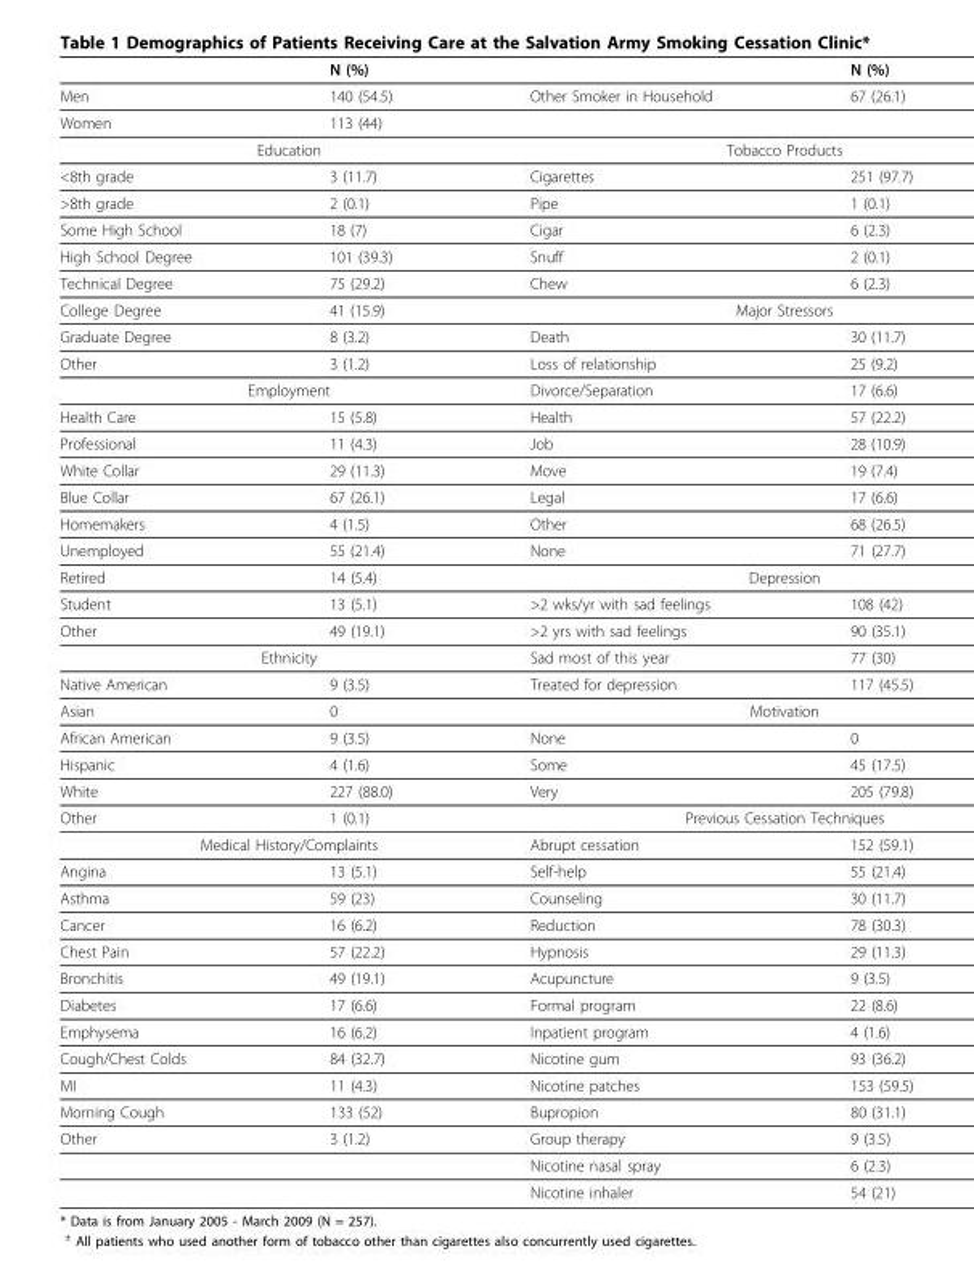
<table><thead><tr><td></td><td>N (%)</td><td></td><td>N (%)</td></tr></thead><tbody><tr><td>Men</td><td>140 (54.5)</td><td>Other Smoker in Household</td><td>67 (26.1)</td></tr><tr><td>Women</td><td>113 (44)</td><td></td><td></td></tr><tr><td colspan="2">Education</td><td colspan="2">Tobacco Products</td></tr><tr><td>&lt;8th grade</td><td>3 (11.7)</td><td>Cigarettes</td><td>251 (97.7)</td></tr><tr><td>&gt;8th grade</td><td>2 (0.1)</td><td>Pipe</td><td>1 (0.1)</td></tr><tr><td>Some High School</td><td>18 (7)</td><td>Cigar</td><td>6 (2.3)</td></tr><tr><td>High School Degree</td><td>101 (39.3)</td><td>Snuff</td><td>2 (0.1)</td></tr><tr><td>Technical Degree</td><td>75 (29.2)</td><td>Chew</td><td>6 (2.3)</td></tr><tr><td>College Degree</td><td>41 (15.9)</td><td colspan="2">Major Stressors</td></tr><tr><td>Graduate Degree</td><td>8 (3.2)</td><td>Death</td><td>30 (11.7)</td></tr><tr><td>Other</td><td>3 (1.2)</td><td>Loss of relationship</td><td>25 (9.2)</td></tr><tr><td colspan="2">Employment</td><td>Divorce/Separation</td><td>17 (6.6)</td></tr><tr><td>Health Care</td><td>15 (5.8)</td><td>Health</td><td>57 (22.2)</td></tr><tr><td>Professional</td><td>11 (4.3)</td><td>Job</td><td>28 (10.9)</td></tr><tr><td>White Collar</td><td>29 (11.3)</td><td>Move</td><td>19 (7.4)</td></tr><tr><td>Blue Collar</td><td>67 (26.1)</td><td>Legal</td><td>17 (6.6)</td></tr><tr><td>Homemakers</td><td>4 (1.5)</td><td>Other</td><td>68 (26.5)</td></tr><tr><td>Unemployed</td><td>55 (21.4)</td><td>None</td><td>71 (27.7)</td></tr><tr><td>Retired</td><td>14 (5.4)</td><td colspan="2">Depression</td></tr><tr><td>Student</td><td>13 (5.1)</td><td>&gt;2 wks/yr with sad feelings</td><td>108 (42)</td></tr><tr><td>Other</td><td>49 (19.1)</td><td>&gt;2 yrs with sad feelings</td><td>90 (35.1)</td></tr><tr><td colspan="2">Ethnicity</td><td>Sad most of this year</td><td>77 (30)</td></tr><tr><td>Native American</td><td>9 (3.5)</td><td>Treated for depression</td><td>117 (45.5)</td></tr><tr><td>Asian</td><td>0</td><td colspan="2">Motivation</td></tr><tr><td>African American</td><td>9 (3.5)</td><td>None</td><td>0</td></tr><tr><td>Hispanic</td><td>4 (1.6)</td><td>Some</td><td>45 (17.5)</td></tr><tr><td>White</td><td>227 (88.0)</td><td>Very</td><td>205 (79.8)</td></tr><tr><td>Other</td><td>1 (0.1)</td><td colspan="2">Previous Cessation Techniques</td></tr><tr><td colspan="2">Medical History/Complaints</td><td>Abrupt cessation</td><td>152 (59.1)</td></tr><tr><td>Angina</td><td>13 (5.1)</td><td>Self-help</td><td>55 (21.4)</td></tr><tr><td>Asthma</td><td>59 (23)</td><td>Counseling</td><td>30 (11.7)</td></tr><tr><td>Cancer</td><td>16 (6.2)</td><td>Reduction</td><td>78 (30.3)</td></tr><tr><td>Chest Pain</td><td>57 (22.2)</td><td>Hypnosis</td><td>29 (11.3)</td></tr><tr><td>Bronchitis</td><td>49 (19.1)</td><td>Acupuncture</td><td>9 (3.5)</td></tr><tr><td>Diabetes</td><td>17 (6.6)</td><td>Formal program</td><td>22 (8.6)</td></tr><tr><td>Emphysema</td><td>16 (6.2)</td><td>Inpatient program</td><td>4 (1.6)</td></tr><tr><td>Cough/Chest Colds</td><td>84 (32.7)</td><td>Nicotine gum</td><td>93 (36.2)</td></tr><tr><td>MI</td><td>11 (4.3)</td><td>Nicotine patches</td><td>153 (59.5)</td></tr><tr><td>Morning Cough</td><td>133 (52)</td><td>Bupropion</td><td>80 (31.1)</td></tr><tr><td rowspan="3">Other</td><td>3 (1.2)</td><td>Group therapy</td><td>9 (3.5)</td></tr><tr><td></td><td>Nicotine nasal spray</td><td>6 (2.3)</td></tr><tr><td></td><td>Nicotine inhaler</td><td>54 (21)</td></tr></tbody></table>